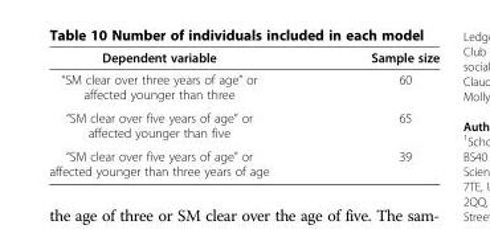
<table><thead><tr><td>Dependent variable</td><td>Sample size</td></tr></thead><tbody><tr><td>“SM clear over three years of age” or affected younger than three</td><td>60</td></tr><tr><td>“SM clear over five years of age” or affected younger than five</td><td>65</td></tr><tr><td>“SM clear over five years of age” or affected younger than three years of age</td><td>39</td></tr></tbody></table>